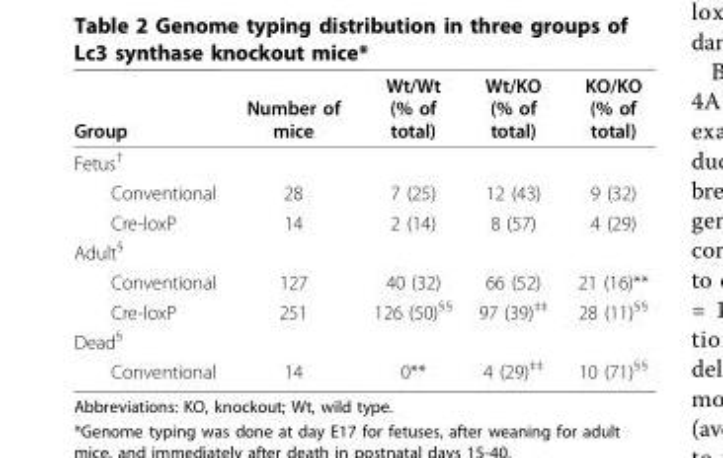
<table><thead><tr><td>Group</td><td>Number of mice</td><td>Wt/Wt (% of total)</td><td>Wt/KO (% of total)</td><td>KO/KO (% of total)</td></tr></thead><tbody><tr><td colspan="5">Fetus<sup>†</sup></td></tr><tr><td>Conventional</td><td>28</td><td>7 (25)</td><td>12 (43)</td><td>9 (32)</td></tr><tr><td>Cre-loxP</td><td>14</td><td>2 (14)</td><td>8 (57)</td><td>4 (29)</td></tr><tr><td colspan="5">Adult<sup>§</sup></td></tr><tr><td>Conventional</td><td>127</td><td>40 (32)</td><td>66 (52)</td><td>21 (16)**</td></tr><tr><td>Cre-loxP</td><td>251</td><td>126 (50)<sup>§§</sup></td><td>97 (39)<sup>‡‡</sup></td><td>28 (11)<sup>§§</sup></td></tr><tr><td colspan="5">Dead<sup>§</sup></td></tr><tr><td>Conventional</td><td>14</td><td>0**</td><td>4 (29)<sup>‡‡</sup></td><td>10 (71)<sup>§§</sup></td></tr></tbody></table>